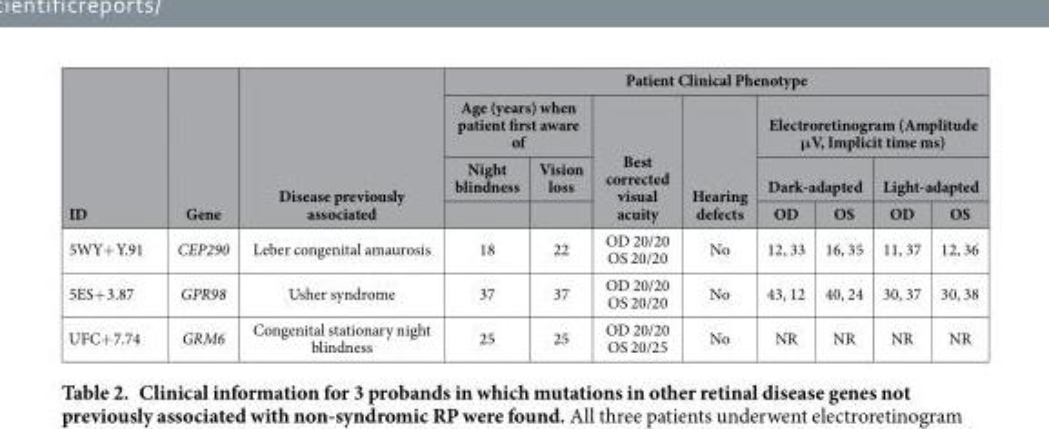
<table><thead><tr><td rowspan="4">ID</td><td rowspan="4">Gene</td><td rowspan="4">Disease previously associated</td><td colspan="8">Patient Clinical Phenotype</td></tr><tr><td colspan="2">Age (years) when patient first aware of</td><td rowspan="3">Best corrected visual acuity</td><td rowspan="3">Hearing defects</td><td colspan="4">Electroretinogram (Amplitude μV, Implicit time ms)</td></tr><tr><td rowspan="2">Night blindness</td><td rowspan="2">Vision loss</td><td colspan="2">Dark-adapted</td><td colspan="2">Light-adapted</td></tr><tr><td>OD</td><td>OS</td><td>OD</td><td>OS</td></tr></thead><tbody><tr><td>5WY+ Y.91</td><td>CEP290</td><td>Leber congenital amaurosis</td><td>18</td><td>22</td><td>OD 20/20 OS 20/20</td><td>No</td><td>12, 33</td><td>16, 35</td><td>11, 37</td><td>12, 36</td></tr><tr><td>5ES+ 3.87</td><td>GPR98</td><td>Usher syndrome</td><td>37</td><td>37</td><td>OD 20/20 OS 20/20</td><td>No</td><td>43, 12</td><td>40, 24</td><td>30, 37</td><td>30, 38</td></tr><tr><td>UFC+ 7.74</td><td>GRM6</td><td>Congenital stationary night blindness</td><td>25</td><td>25</td><td>OD 20/20 OS 20/25</td><td>No</td><td>NR</td><td>NR</td><td>NR</td><td>NR</td></tr></tbody></table>